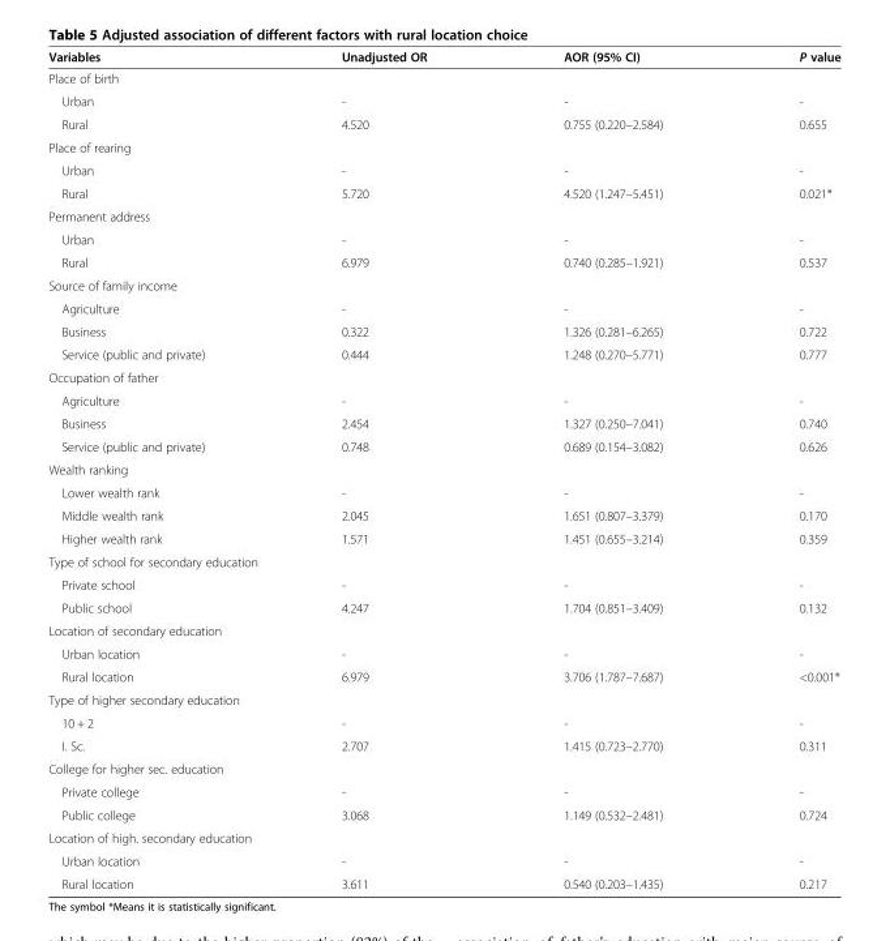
<table><thead><tr><td>Variables</td><td>Unadjusted OR</td><td>AOR (95% CI)</td><td>P value</td></tr></thead><tbody><tr><td colspan="4">Place of birth</td></tr><tr><td>Urban</td><td>-</td><td>-</td><td>-</td></tr><tr><td>Rural</td><td>4.520</td><td>0.755 (0.220–2.584)</td><td>0.655</td></tr><tr><td colspan="4">Place of rearing</td></tr><tr><td>Urban</td><td>-</td><td>-</td><td>-</td></tr><tr><td>Rural</td><td>5.720</td><td>4.520 (1.247–5.451)</td><td>0.021*</td></tr><tr><td colspan="4">Permanent address</td></tr><tr><td>Urban</td><td>-</td><td>-</td><td>-</td></tr><tr><td>Rural</td><td>6.979</td><td>0.740 (0.285–1.921)</td><td>0.537</td></tr><tr><td colspan="4">Source of family income</td></tr><tr><td>Agriculture</td><td>-</td><td>-</td><td>-</td></tr><tr><td>Business</td><td>0.322</td><td>1.326 (0.281–6.265)</td><td>0.722</td></tr><tr><td>Service (public and private)</td><td>0.444</td><td>1.248 (0.270–5.771)</td><td>0.777</td></tr><tr><td colspan="4">Occupation of father</td></tr><tr><td>Agriculture</td><td>-</td><td>-</td><td>-</td></tr><tr><td>Business</td><td>2.454</td><td>1.327 (0.250–7.041)</td><td>0.740</td></tr><tr><td>Service (public and private)</td><td>0.748</td><td>0.689 (0.154–3.082)</td><td>0.626</td></tr><tr><td colspan="4">Wealth ranking</td></tr><tr><td>Lower wealth rank</td><td>-</td><td>-</td><td>-</td></tr><tr><td>Middle wealth rank</td><td>2.045</td><td>1.651 (0.807–3.379)</td><td>0.170</td></tr><tr><td>Higher wealth rank</td><td>1.571</td><td>1.451 (0.655–3.214)</td><td>0.359</td></tr><tr><td colspan="4">Type of school for secondary education</td></tr><tr><td>Private school</td><td>-</td><td>-</td><td>-</td></tr><tr><td>Public school</td><td>4.247</td><td>1.704 (0.851–3.409)</td><td>0.132</td></tr><tr><td colspan="4">Location of secondary education</td></tr><tr><td>Urban location</td><td>-</td><td>-</td><td>-</td></tr><tr><td>Rural location</td><td>6.979</td><td>3.706 (1.787–7.687)</td><td>&lt;0.001*</td></tr><tr><td colspan="4">Type of higher secondary education</td></tr><tr><td>10 + 2</td><td>-</td><td>-</td><td>-</td></tr><tr><td>I. Sc.</td><td>2.707</td><td>1.415 (0.723–2.770)</td><td>0.311</td></tr><tr><td colspan="4">College for higher sec. education</td></tr><tr><td>Private college</td><td>-</td><td>-</td><td>-</td></tr><tr><td>Public college</td><td>3.068</td><td>1.149 (0.532–2.481)</td><td>0.724</td></tr><tr><td colspan="4">Location of high. secondary education</td></tr><tr><td>Urban location</td><td>-</td><td>-</td><td>-</td></tr><tr><td>Rural location</td><td>3.611</td><td>0.540 (0.203–1.435)</td><td>0.217</td></tr></tbody></table>